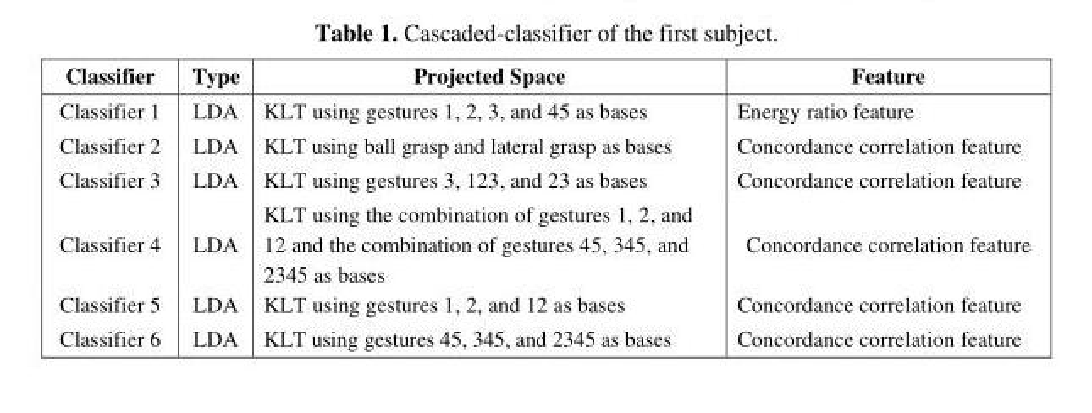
<table><thead><tr><td>Classifier</td><td>Type</td><td>Projected Space</td><td>Feature</td></tr></thead><tbody><tr><td>Classifier 1</td><td>LDA</td><td>KLT using gestures 1, 2, 3, and 45 as bases</td><td>Energy ratio feature</td></tr><tr><td>Classifier 2</td><td>LDA</td><td>KLT using ball grasp and lateral grasp as bases</td><td>Concordance correlation feature</td></tr><tr><td>Classifier 3</td><td>LDA</td><td>KLT using gestures 3, 123, and 23 as bases</td><td>Concordance correlation feature</td></tr><tr><td>Classifier 4</td><td>LDA</td><td>KLT using the combination of gestures 1, 2, and 12 and the combination of gestures 45, 345, and 2345 as bases</td><td>Concordance correlation feature</td></tr><tr><td>Classifier 5</td><td>LDA</td><td>KLT using gestures 1, 2, and 12 as bases</td><td>Concordance correlation feature</td></tr><tr><td>Classifier 6</td><td>LDA</td><td>KLT using gestures 45, 345, and 2345 as bases</td><td>Concordance correlation feature</td></tr></tbody></table>